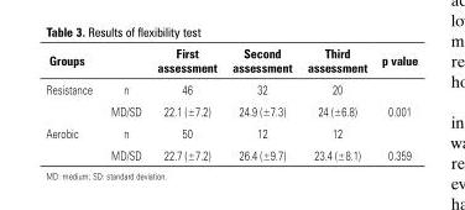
<table><thead><tr><td>Groups</td><td></td><td>First assessment</td><td>Second assessment</td><td>Third assessment</td><td>p value</td></tr></thead><tbody><tr><td rowspan="2">Resistance</td><td>n</td><td>46</td><td>32</td><td>20</td><td></td></tr><tr><td>MD/SD</td><td>22.1 (±7.2)</td><td>24.9 (±7.3)</td><td>24 (±6.8)</td><td>0.001</td></tr><tr><td rowspan="2">Aerobic</td><td>n</td><td>50</td><td>12</td><td>12</td><td></td></tr><tr><td>MD/SD</td><td>22.7 (±7.2)</td><td>26.4 (±9.7)</td><td>23.4 (±8.1)</td><td>0.359</td></tr></tbody></table>